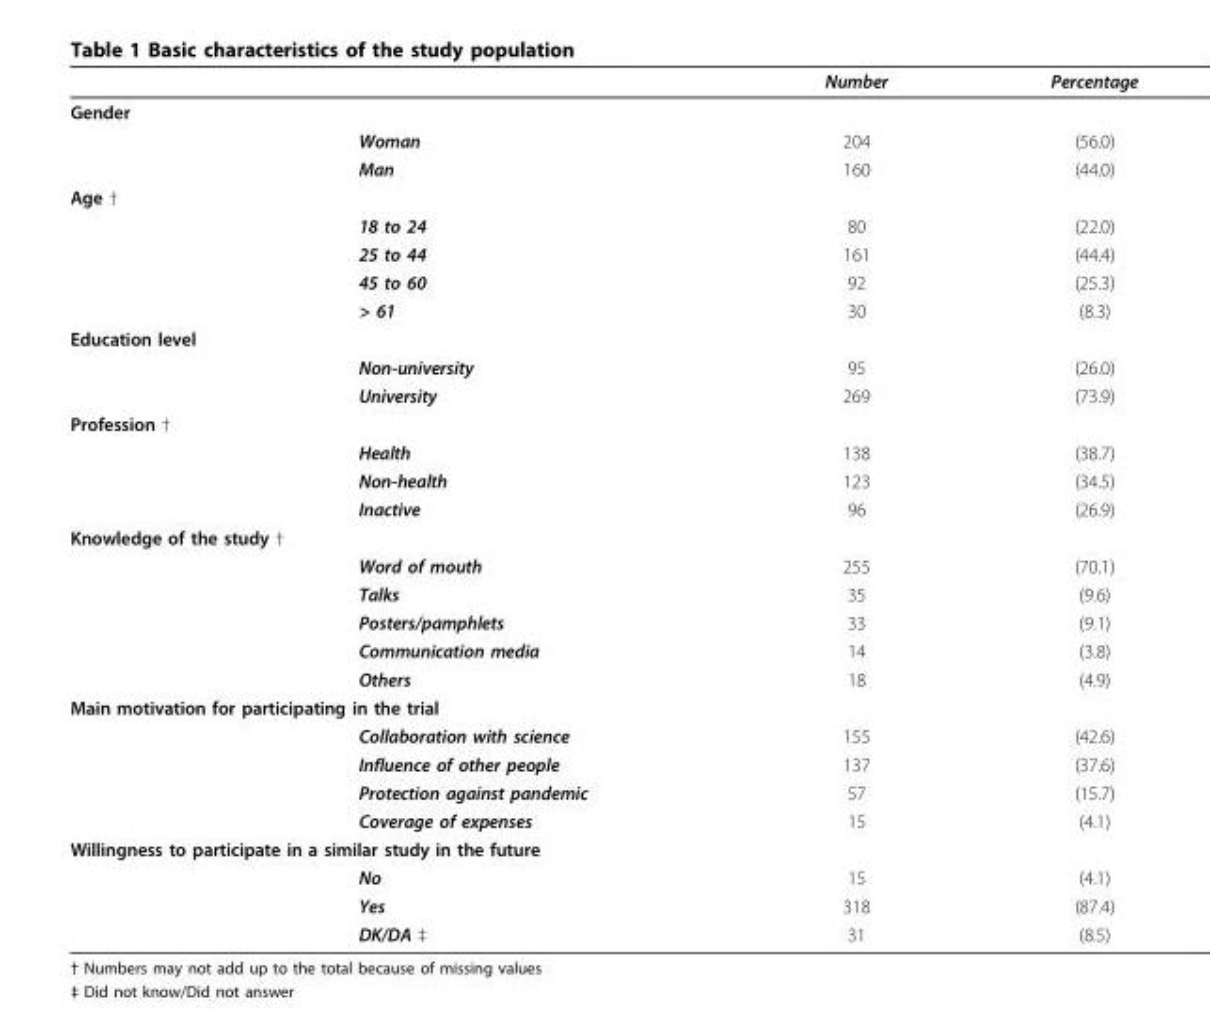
<table><thead><tr><td></td><td></td><td>Number</td><td>Percentage</td></tr></thead><tbody><tr><td colspan="4">Gender</td></tr><tr><td></td><td>Woman</td><td>204</td><td>(56.0)</td></tr><tr><td></td><td>Man</td><td>160</td><td>(44.0)</td></tr><tr><td colspan="4">Age †</td></tr><tr><td></td><td>18 to 24</td><td>80</td><td>(22.0)</td></tr><tr><td></td><td>25 to 44</td><td>161</td><td>(44.4)</td></tr><tr><td></td><td>45 to 60</td><td>92</td><td>(25.3)</td></tr><tr><td></td><td>&gt; 61</td><td>30</td><td>(8.3)</td></tr><tr><td colspan="4">Education level</td></tr><tr><td></td><td>Non-university</td><td>95</td><td>(26.0)</td></tr><tr><td></td><td>University</td><td>269</td><td>(73.9)</td></tr><tr><td colspan="4">Profession †</td></tr><tr><td></td><td>Health</td><td>138</td><td>(38.7)</td></tr><tr><td></td><td>Non-health</td><td>123</td><td>(34.5)</td></tr><tr><td></td><td>Inactive</td><td>96</td><td>(26.9)</td></tr><tr><td colspan="4">Knowledge of the study †</td></tr><tr><td></td><td>Word of mouth</td><td>255</td><td>(70.1)</td></tr><tr><td></td><td>Talks</td><td>35</td><td>(9.6)</td></tr><tr><td></td><td>Posters/pamphlets</td><td>33</td><td>(9.1)</td></tr><tr><td></td><td>Communication media</td><td>14</td><td>(3.8)</td></tr><tr><td></td><td>Others</td><td>18</td><td>(4.9)</td></tr><tr><td colspan="4">Main motivation for participating in the trial</td></tr><tr><td></td><td>Collaboration with science</td><td>155</td><td>(42.6)</td></tr><tr><td></td><td>Influence of other people</td><td>137</td><td>(37.6)</td></tr><tr><td></td><td>Protection against pandemic</td><td>57</td><td>(15.7)</td></tr><tr><td></td><td>Coverage of expenses</td><td>15</td><td>(4.1)</td></tr><tr><td colspan="4">Willingness to participate in a similar study in the future</td></tr><tr><td></td><td>No</td><td>15</td><td>(4.1)</td></tr><tr><td></td><td>Yes</td><td>318</td><td>(87.4)</td></tr><tr><td></td><td>DK/DA ‡</td><td>31</td><td>(8.5)</td></tr></tbody></table>